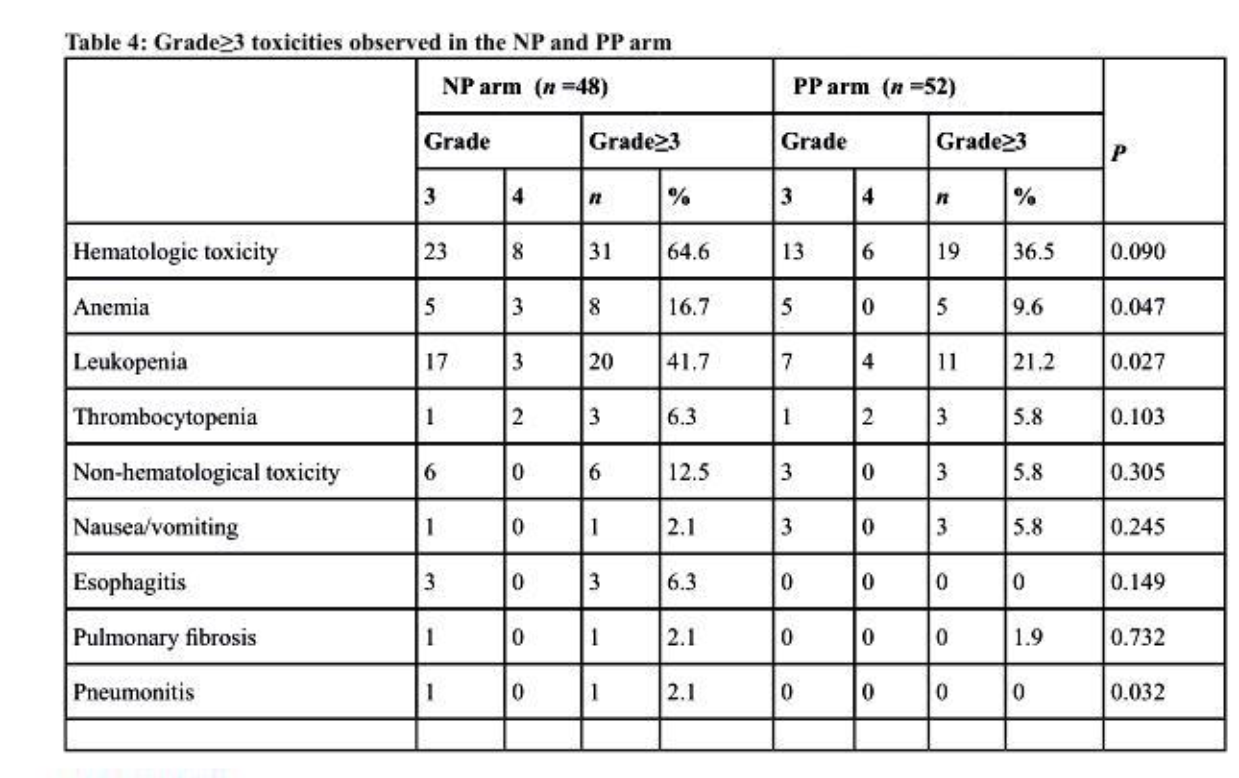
<table><thead><tr><td rowspan="3"></td><td colspan="4">NP arm (n =48)</td><td colspan="4">PP arm (n =52)</td><td rowspan="3">P</td></tr><tr><td colspan="2">Grade</td><td colspan="2">Grade≥3</td><td colspan="2">Grade</td><td colspan="2">Grade≥3</td></tr><tr><td>3</td><td>4</td><td>n</td><td>%</td><td>3</td><td>4</td><td>n</td><td>%</td></tr></thead><tbody><tr><td>Hematologic toxicity</td><td>23</td><td>8</td><td>31</td><td>64.6</td><td>13</td><td>6</td><td>19</td><td>36.5</td><td>0.090</td></tr><tr><td>Anemia</td><td>5</td><td>3</td><td>8</td><td>16.7</td><td>5</td><td>0</td><td>5</td><td>9.6</td><td>0.047</td></tr><tr><td>Leukopenia</td><td>17</td><td>3</td><td>20</td><td>41.7</td><td>7</td><td>4</td><td>11</td><td>21.2</td><td>0.027</td></tr><tr><td>Thrombocytopenia</td><td>1</td><td>2</td><td>3</td><td>6.3</td><td>1</td><td>2</td><td>3</td><td>5.8</td><td>0.103</td></tr><tr><td>Non-hematological toxicity</td><td>6</td><td>0</td><td>6</td><td>12.5</td><td>3</td><td>0</td><td>3</td><td>5.8</td><td>0.305</td></tr><tr><td>Nausea/vomiting</td><td>1</td><td>0</td><td>1</td><td>2.1</td><td>3</td><td>0</td><td>3</td><td>5.8</td><td>0.245</td></tr><tr><td>Esophagitis</td><td>3</td><td>0</td><td>3</td><td>6.3</td><td>0</td><td>0</td><td>0</td><td>0</td><td>0.149</td></tr><tr><td>Pulmonary fibrosis</td><td>1</td><td>0</td><td>1</td><td>2.1</td><td>0</td><td>0</td><td>0</td><td>1.9</td><td>0.732</td></tr><tr><td>Pneumonitis</td><td>1</td><td>0</td><td>1</td><td>2.1</td><td>0</td><td>0</td><td>0</td><td>0</td><td>0.032</td></tr></tbody></table>